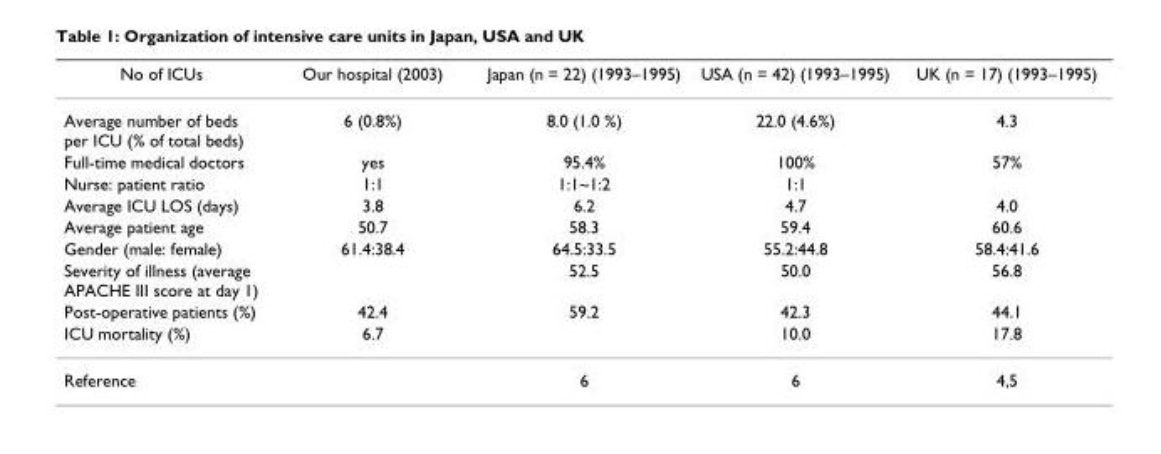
<table><thead><tr><td>No of ICUs</td><td>Our hospital (2003)</td><td>Japan (n = 22) (1993–1995)</td><td>USA (n = 42) (1993–1995)</td><td>UK (n = 17) (1993–1995)</td></tr></thead><tbody><tr><td>Average number of beds per ICU (% of total beds)</td><td>6 (0.8%)</td><td>8.0 (1.0 %)</td><td>22.0 (4.6%)</td><td>4.3</td></tr><tr><td>Full-time medical doctors</td><td>yes</td><td>95.4%</td><td>100%</td><td>57%</td></tr><tr><td>Nurse: patient ratio</td><td>1:1</td><td>1:1~1:2</td><td>1:1</td><td></td></tr><tr><td>Average ICU LOS (days)</td><td>3.8</td><td>6.2</td><td>4.7</td><td>4.0</td></tr><tr><td>Average patient age</td><td>50.7</td><td>58.3</td><td>59.4</td><td>60.6</td></tr><tr><td>Gender (male: female)</td><td>61.4:38.4</td><td>64.5:33.5</td><td>55.2:44.8</td><td>58.4:41.6</td></tr><tr><td>Severity of illness (average APACHE III score at day 1)</td><td></td><td>52.5</td><td>50.0</td><td>56.8</td></tr><tr><td>Post-operative patients (%)</td><td>42.4</td><td>59.2</td><td>42.3</td><td>44.1</td></tr><tr><td>ICU mortality (%)</td><td>6.7</td><td></td><td>10.0</td><td>17.8</td></tr><tr><td>Reference</td><td></td><td>6</td><td>6</td><td>4,5</td></tr></tbody></table>